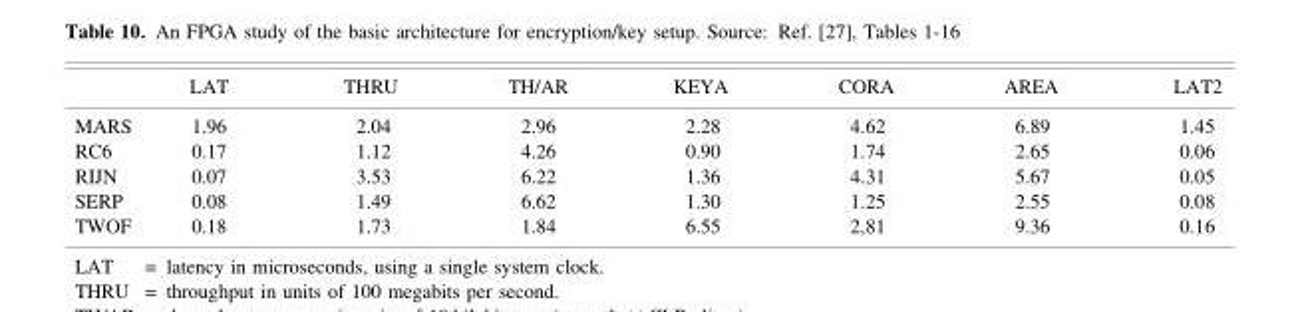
<table><thead><tr><td></td><td>LAT</td><td>THRU</td><td>TH/AR</td><td>KEYA</td><td>CORA</td><td>AREA</td><td>LAT2</td></tr></thead><tbody><tr><td>MARS</td><td>1.96</td><td>2.04</td><td>2.96</td><td>2.28</td><td>4.62</td><td>6.89</td><td>1.45</td></tr><tr><td>RC6</td><td>0.17</td><td>1.12</td><td>4.26</td><td>0.90</td><td>1.74</td><td>2.65</td><td>0.06</td></tr><tr><td>RIJN</td><td>0.07</td><td>3.53</td><td>6.22</td><td>1.36</td><td>4.31</td><td>5.67</td><td>0.05</td></tr><tr><td>SERP</td><td>0.08</td><td>1.49</td><td>6.62</td><td>1.30</td><td>1.25</td><td>2.55</td><td>0.08</td></tr><tr><td>TWOF</td><td>0.18</td><td>1.73</td><td>1.84</td><td>6.55</td><td>2,81</td><td>9.36</td><td>0.16</td></tr></tbody></table>